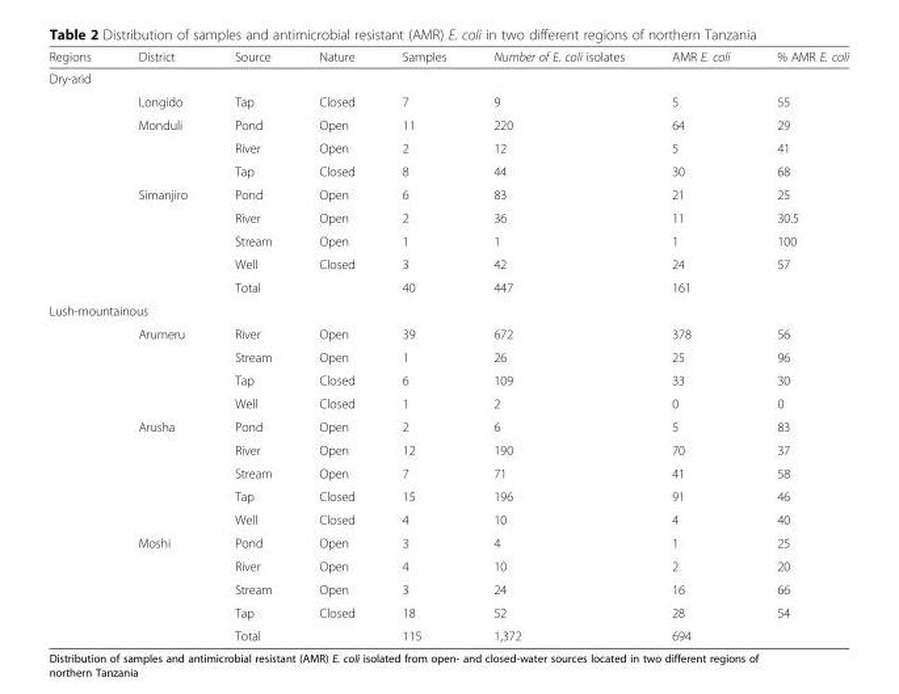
<table><thead><tr><td>Regions</td><td>District</td><td>Source</td><td>Nature</td><td>Samples</td><td>Number of E. coli isolates</td><td>AMR E. coli</td><td>% AMR E. coli</td></tr></thead><tbody><tr><td colspan="8">Dry-arid</td></tr><tr><td></td><td>Longido</td><td>Tap</td><td>Closed</td><td>7</td><td>9</td><td>5</td><td>55</td></tr><tr><td></td><td>Monduli</td><td>Pond</td><td>Open</td><td>11</td><td>220</td><td>64</td><td>29</td></tr><tr><td></td><td></td><td>River</td><td>Open</td><td>2</td><td>12</td><td>5</td><td>41</td></tr><tr><td></td><td></td><td>Tap</td><td>Closed</td><td>8</td><td>44</td><td>30</td><td>68</td></tr><tr><td></td><td>Simanjiro</td><td>Pond</td><td>Open</td><td>6</td><td>83</td><td>21</td><td>25</td></tr><tr><td></td><td></td><td>River</td><td>Open</td><td>2</td><td>36</td><td>11</td><td>30.5</td></tr><tr><td></td><td></td><td>Stream</td><td>Open</td><td>1</td><td>1</td><td>1</td><td>100</td></tr><tr><td></td><td></td><td>Well</td><td>Closed</td><td>3</td><td>42</td><td>24</td><td>57</td></tr><tr><td></td><td></td><td>Total</td><td></td><td>40</td><td>447</td><td>161</td><td></td></tr><tr><td colspan="8">Lush-mountainous</td></tr><tr><td></td><td>Arumeru</td><td>River</td><td>Open</td><td>39</td><td>672</td><td>378</td><td>56</td></tr><tr><td></td><td></td><td>Stream</td><td>Open</td><td>1</td><td>26</td><td>25</td><td>96</td></tr><tr><td></td><td></td><td>Tap</td><td>Closed</td><td>6</td><td>109</td><td>33</td><td>30</td></tr><tr><td></td><td></td><td>Well</td><td>Closed</td><td>1</td><td>2</td><td>0</td><td>0</td></tr><tr><td></td><td>Arusha</td><td>Pond</td><td>Open</td><td>2</td><td>6</td><td>5</td><td>83</td></tr><tr><td></td><td></td><td>River</td><td>Open</td><td>12</td><td>190</td><td>70</td><td>37</td></tr><tr><td></td><td></td><td>Stream</td><td>Open</td><td>7</td><td>71</td><td>41</td><td>58</td></tr><tr><td></td><td></td><td>Tap</td><td>Closed</td><td>15</td><td>196</td><td>91</td><td>46</td></tr><tr><td></td><td></td><td>Well</td><td>Closed</td><td>4</td><td>10</td><td>4</td><td>40</td></tr><tr><td></td><td>Moshi</td><td>Pond</td><td>Open</td><td>3</td><td>4</td><td>1</td><td>25</td></tr><tr><td></td><td></td><td>River</td><td>Open</td><td>4</td><td>10</td><td>2</td><td>20</td></tr><tr><td></td><td></td><td>Stream</td><td>Open</td><td>3</td><td>24</td><td>16</td><td>66</td></tr><tr><td></td><td></td><td>Tap</td><td>Closed</td><td>18</td><td>52</td><td>28</td><td>54</td></tr><tr><td></td><td></td><td>Total</td><td></td><td>115</td><td>1,372</td><td>694</td><td></td></tr></tbody></table>